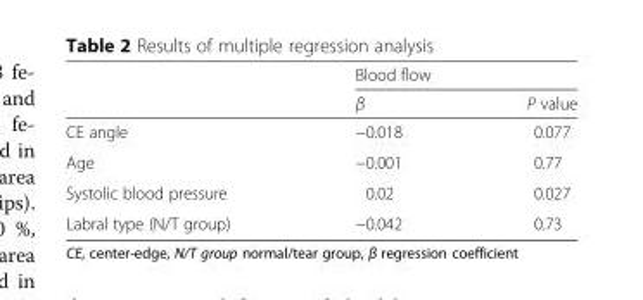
<table><thead><tr><td rowspan="2"></td><td colspan="2">Blood flow</td></tr><tr><td>β</td><td>P value</td></tr></thead><tbody><tr><td>CE angle</td><td>−0.018</td><td>0.077</td></tr><tr><td>Age</td><td>−0.001</td><td>0.77</td></tr><tr><td>Systolic blood pressure</td><td>0.02</td><td>0.027</td></tr><tr><td>Labral type (N/T group)</td><td>−0.042</td><td>0.73</td></tr></tbody></table>